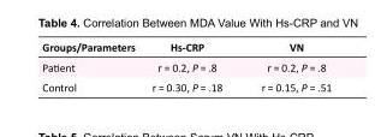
<table><tbody><tr><td>Groups/Parameters</td><td>Hs-CRP</td><td>VN</td></tr><tr><td>Patient</td><td>r = 0.2, P = .8</td><td>r = 0.2, P = .8</td></tr><tr><td>Control</td><td>r = 0.30, P = .18</td><td>r = 0.15, P = .51</td></tr></tbody></table>